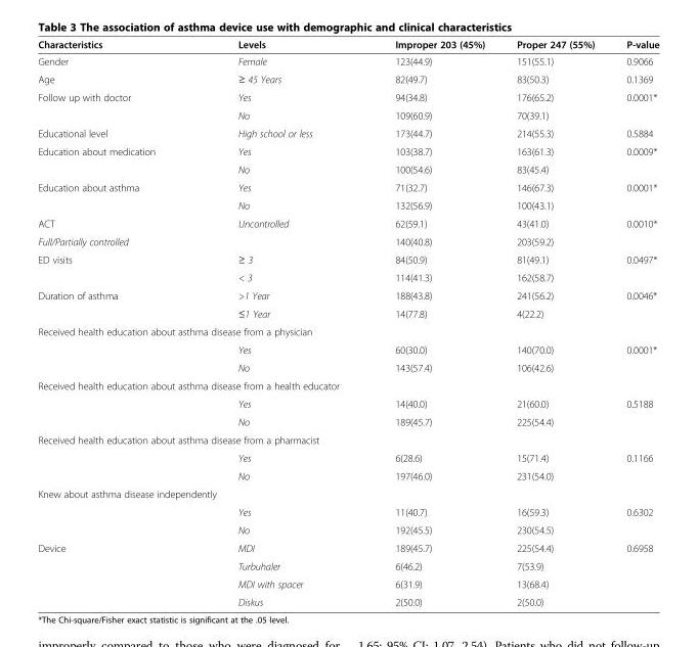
<table><thead><tr><td>Characteristics</td><td>Levels</td><td>Improper 203 (45%)</td><td>Proper 247 (55%)</td><td>P-value</td></tr></thead><tbody><tr><td>Gender</td><td>Female</td><td>123(44.9)</td><td>151(55.1)</td><td>0.9066</td></tr><tr><td>Age</td><td>≥ 45 Years</td><td>82(49.7)</td><td>83(50.3)</td><td>0.1369</td></tr><tr><td rowspan="2">Follow up with doctor</td><td>Yes</td><td>94(34.8)</td><td>176(65.2)</td><td>0.0001*</td></tr><tr><td>No</td><td>109(60.9)</td><td>70(39.1)</td><td></td></tr><tr><td>Educational level</td><td>High school or less</td><td>173(44.7)</td><td>214(55.3)</td><td>0.5884</td></tr><tr><td rowspan="2">Education about medication</td><td>Yes</td><td>103(38.7)</td><td>163(61.3)</td><td>0.0009*</td></tr><tr><td>No</td><td>100(54.6)</td><td>83(45.4)</td><td></td></tr><tr><td rowspan="2">Education about asthma</td><td>Yes</td><td>71(32.7)</td><td>146(67.3)</td><td>0.0001*</td></tr><tr><td>No</td><td>132(56.9)</td><td>100(43.1)</td><td></td></tr><tr><td>ACT</td><td>Uncontrolled</td><td>62(59.1)</td><td>43(41.0)</td><td>0.0010*</td></tr><tr><td colspan="2">Full/Partially controlled</td><td>140(40.8)</td><td>203(59.2)</td><td></td></tr><tr><td rowspan="2">ED visits</td><td>≥ 3</td><td>84(50.9)</td><td>81(49.1)</td><td>0.0497*</td></tr><tr><td>&lt; 3</td><td>114(41.3)</td><td>162(58.7)</td><td></td></tr><tr><td rowspan="2">Duration of asthma</td><td>&gt;1 Year</td><td>188(43.8)</td><td>241(56.2)</td><td>0.0046*</td></tr><tr><td>≤1 Year</td><td>14(77.8)</td><td>4(22.2)</td><td></td></tr><tr><td colspan="5">Received health education about asthma disease from a physician</td></tr><tr><td></td><td>Yes</td><td>60(30.0)</td><td>140(70.0)</td><td>0.0001*</td></tr><tr><td></td><td>No</td><td>143(57.4)</td><td>106(42.6)</td><td></td></tr><tr><td colspan="5">Received health education about asthma disease from a health educator</td></tr><tr><td></td><td>Yes</td><td>14(40.0)</td><td>21(60.0)</td><td>0.5188</td></tr><tr><td></td><td>No</td><td>189(45.7)</td><td>225(54.4)</td><td></td></tr><tr><td colspan="5">Received health education about asthma disease from a pharmacist</td></tr><tr><td></td><td>Yes</td><td>6(28.6)</td><td>15(71.4)</td><td>0.1166</td></tr><tr><td></td><td>No</td><td>197(46.0)</td><td>231(54.0)</td><td></td></tr><tr><td colspan="5">Knew about asthma disease independently</td></tr><tr><td></td><td>Yes</td><td>11(40.7)</td><td>16(59.3)</td><td>0.6302</td></tr><tr><td></td><td>No</td><td>192(45.5)</td><td>230(54.5)</td><td></td></tr><tr><td rowspan="4">Device</td><td>MDI</td><td>189(45.7)</td><td>225(54.4)</td><td>0.6958</td></tr><tr><td>Turbuhaler</td><td>6(46.2)</td><td>7(53.9)</td><td></td></tr><tr><td>MDI with spacer</td><td>6(31.9)</td><td>13(68.4)</td><td></td></tr><tr><td>Diskus</td><td>2(50.0)</td><td>2(50.0)</td><td></td></tr></tbody></table>